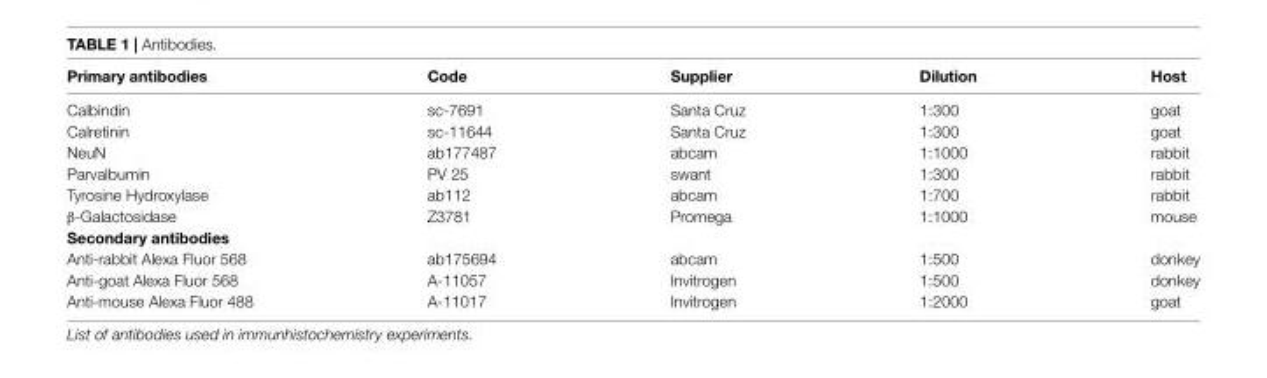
<table><thead><tr><td>Primary antibodies</td><td>Code</td><td>Supplier</td><td>Dilution</td><td>Host</td></tr></thead><tbody><tr><td>Calbindin</td><td>sc-7691</td><td>Santa Cruz</td><td>1:300</td><td>goat</td></tr><tr><td>Calretinin</td><td>sc-11644</td><td>Santa Cruz</td><td>1:300</td><td>goat</td></tr><tr><td>NeuN</td><td>ab177487</td><td>abcam</td><td>1:1000</td><td>rabbit</td></tr><tr><td>Parvalbumin</td><td>PV 25</td><td>swant</td><td>1:300</td><td>rabbit</td></tr><tr><td>Tyrosine Hydroxylase</td><td>ab112</td><td>abcam</td><td>1:700</td><td>rabbit</td></tr><tr><td>β-Galactosidase</td><td>Z3781</td><td>Promega</td><td>1:1000</td><td>mouse</td></tr><tr><td colspan="5">Secondary antibodies</td></tr><tr><td>Anti-rabbit Alexa Fluor 568</td><td>ab175694</td><td>abcam</td><td>1:500</td><td>donkey</td></tr><tr><td>Anti-goat Alexa Fluor 568</td><td>A-11057</td><td>Invitrogen</td><td>1:500</td><td>donkey</td></tr><tr><td>Anti-mouse Alexa Fluor 488</td><td>A-11017</td><td>Invitrogen</td><td>1:2000</td><td>goat</td></tr></tbody></table>